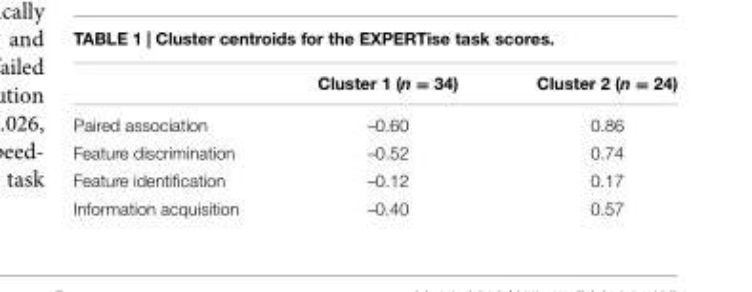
<table><thead><tr><td></td><td>Cluster 1 (n = 34)</td><td>Cluster 2 (n = 24)</td></tr></thead><tbody><tr><td>Paired association</td><td>–0.60</td><td>0.86</td></tr><tr><td>Feature discrimination</td><td>–0.52</td><td>0.74</td></tr><tr><td>Feature identification</td><td>–0.12</td><td>0.17</td></tr><tr><td>Information acquisition</td><td>–0.40</td><td>0.57</td></tr></tbody></table>